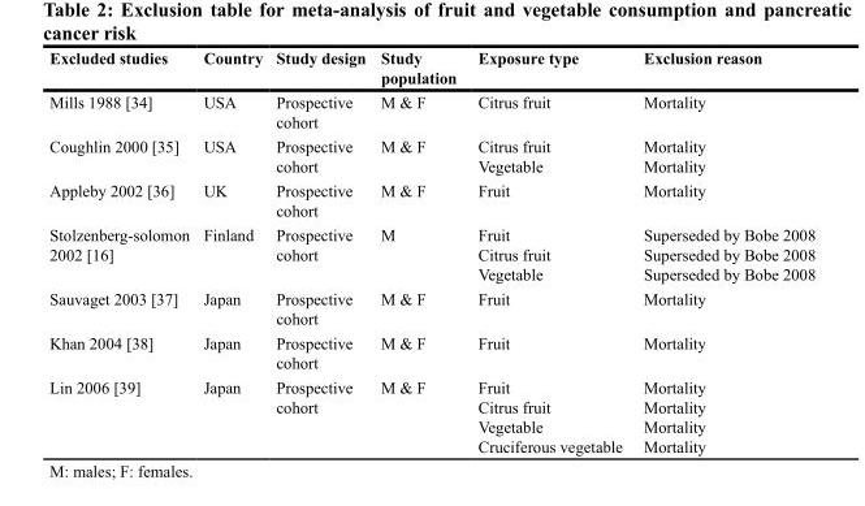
<table><thead><tr><td>Excluded studies</td><td>Country</td><td>Study design</td><td>Study population</td><td>Exposure type</td><td>Exclusion reason</td></tr></thead><tbody><tr><td>Mills 1988 [34]</td><td>USA</td><td>Prospective cohort</td><td>M &amp; F</td><td>Citrus fruit</td><td>Mortality</td></tr><tr><td>Coughlin 2000 [35]</td><td>USA</td><td>Prospective cohort</td><td>M &amp; F</td><td>Citrus fruit Vegetable</td><td>Mortality Mortality</td></tr><tr><td>Appleby 2002 [36]</td><td>UK</td><td>Prospective cohort</td><td>M &amp; F</td><td>Fruit</td><td>Mortality</td></tr><tr><td>Stolzenberg-solomon 2002 [16]</td><td>Finland</td><td>Prospective cohort</td><td>M</td><td>Fruit Citrus fruit Vegetable</td><td>Superseded by Bobe 2008 Superseded by Bobe 2008 Superseded by Bobe 2008</td></tr><tr><td>Sauvaget 2003 [37]</td><td>Japan</td><td>Prospective cohort</td><td>M &amp; F</td><td>Fruit</td><td>Mortality</td></tr><tr><td>Khan 2004 [38]</td><td>Japan</td><td>Prospective cohort</td><td>M &amp; F</td><td>Fruit</td><td>Mortality</td></tr><tr><td>Lin 2006 [39]</td><td>Japan</td><td>Prospective cohort</td><td>M &amp; F</td><td>Fruit Citrus fruit Vegetable Cruciferous vegetable</td><td>Mortality Mortality Mortality Mortality</td></tr></tbody></table>